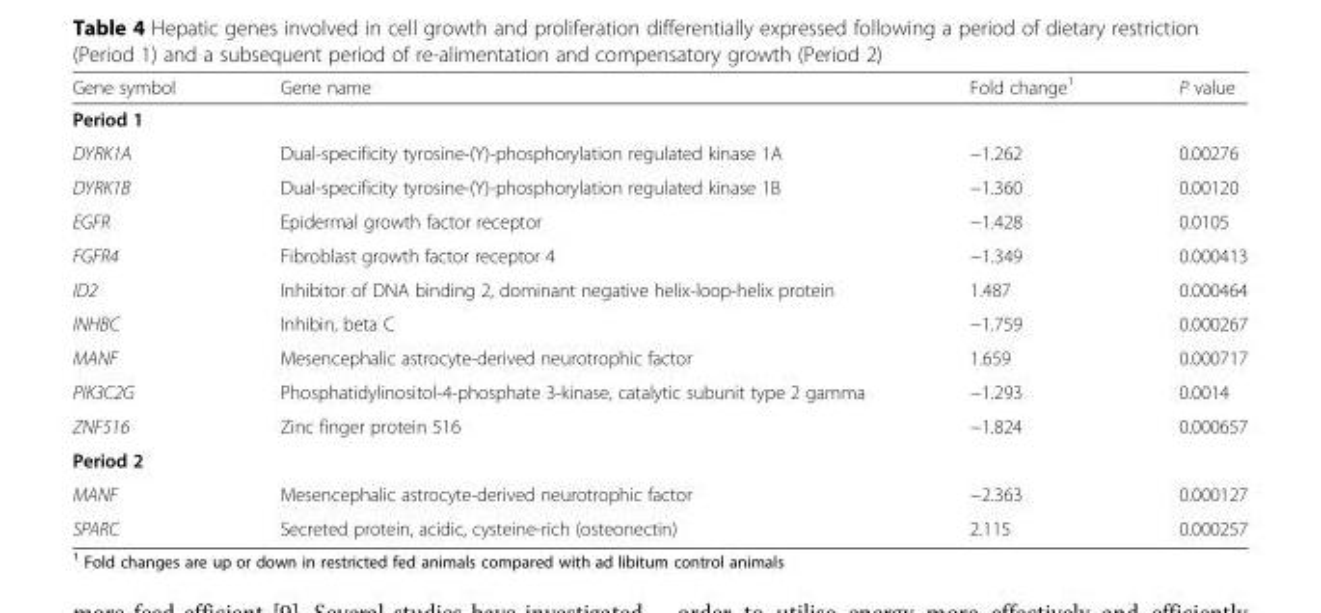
<table><thead><tr><td>Gene symbol</td><td>Gene name</td><td>Fold change<sup>1</sup></td><td>P value</td></tr></thead><tbody><tr><td colspan="4">Period 1</td></tr><tr><td>DYRK1A</td><td>Dual-specificity tyrosine-(Y)-phosphorylation regulated kinase 1A</td><td>−1.262</td><td>0.00276</td></tr><tr><td>DYRK1B</td><td>Dual-specificity tyrosine-(Y)-phosphorylation regulated kinase 1B</td><td>−1.360</td><td>0.00120</td></tr><tr><td>EGFR</td><td>Epidermal growth factor receptor</td><td>−1.428</td><td>0.0105</td></tr><tr><td>FGFR4</td><td>Fibroblast growth factor receptor 4</td><td>−1.349</td><td>0.000413</td></tr><tr><td>ID2</td><td>Inhibitor of DNA binding 2, dominant negative helix-loop-helix protein</td><td>1.487</td><td>0.000464</td></tr><tr><td>INHBC</td><td>Inhibin, beta C</td><td>−1.759</td><td>0.000267</td></tr><tr><td>MANF</td><td>Mesencephalic astrocyte-derived neurotrophic factor</td><td>1.659</td><td>0.000717</td></tr><tr><td>PIK3C2G</td><td>Phosphatidylinositol-4-phosphate 3-kinase, catalytic subunit type 2 gamma</td><td>−1.293</td><td>0.0014</td></tr><tr><td>ZNF516</td><td>Zinc finger protein 516</td><td>−1.824</td><td>0.000657</td></tr><tr><td colspan="4">Period 2</td></tr><tr><td>MANF</td><td>Mesencephalic astrocyte-derived neurotrophic factor</td><td>−2.363</td><td>0.000127</td></tr><tr><td>SPARC</td><td>Secreted protein, acidic, cysteine-rich (osteonectin)</td><td>2.115</td><td>0.000257</td></tr></tbody></table>